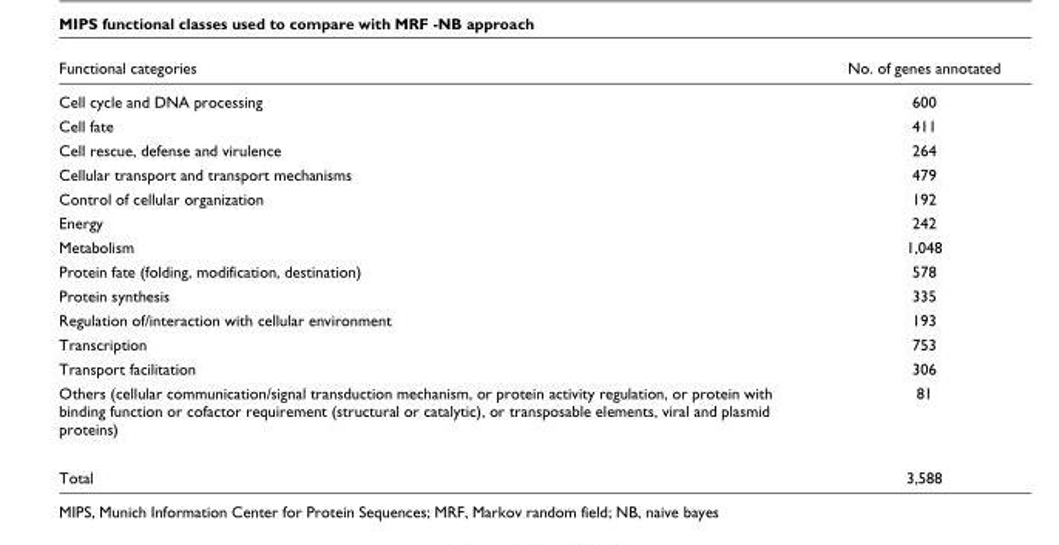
<table><thead><tr><td>Functional categories</td><td>No. of genes annotated</td></tr></thead><tbody><tr><td>Cell cycle and DNA processing</td><td>600</td></tr><tr><td>Cell fate</td><td>411</td></tr><tr><td>Cell rescue, defense and virulence</td><td>264</td></tr><tr><td>Cellular transport and transport mechanisms</td><td>479</td></tr><tr><td>Control of cellular organization</td><td>192</td></tr><tr><td>Energy</td><td>242</td></tr><tr><td>Metabolism</td><td>1,048</td></tr><tr><td>Protein fate (folding, modification, destination)</td><td>578</td></tr><tr><td>Protein synthesis</td><td>335</td></tr><tr><td>Regulation of/interaction with cellular environment</td><td>193</td></tr><tr><td>Transcription</td><td>753</td></tr><tr><td>Transport facilitation</td><td>306</td></tr><tr><td>Others (cellular communication/signal transduction mechanism, or protein activity regulation, or protein with binding function or cofactor requirement (structural or catalytic), or transposable elements, viral and plasmid proteins)</td><td>81</td></tr><tr><td>Total</td><td>3,588</td></tr></tbody></table>